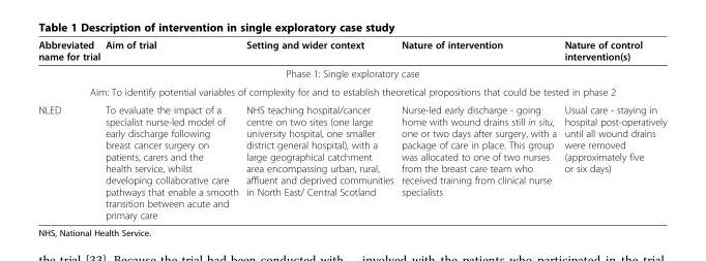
<table><thead><tr><td>Abbreviated name for trial</td><td>Aim of trial</td><td>Setting and wider context</td><td>Nature of intervention</td><td>Nature of control intervention(s)</td></tr></thead><tbody><tr><td colspan="5">Phase 1: Single exploratory case</td></tr><tr><td colspan="5">Aim: To identify potential variables of complexity for and to establish theoretical propositions that could be tested in phase 2</td></tr><tr><td>NLED</td><td>To evaluate the impact of a specialist nurse-led model of early discharge following breast cancer surgery on patients, carers and the health service, whilst developing collaborative care pathways that enable a smooth transition between acute and primary care</td><td>NHS teaching hospital/cancer centre on two sites (one large university hospital, one smaller district general hospital), with a large geographical catchment area encompassing urban, rural, affluent and deprived communities in North East/ Central Scotland</td><td>Nurse-led early discharge - going home with wound drains still in situ, one or two days after surgery, with a package of care in place. This group was allocated to one of two nurses from the breast care team who received training from clinical nurse specialists</td><td>Usual care - staying in hospital post-operatively until all wound drains were removed (approximately five or six days)</td></tr></tbody></table>